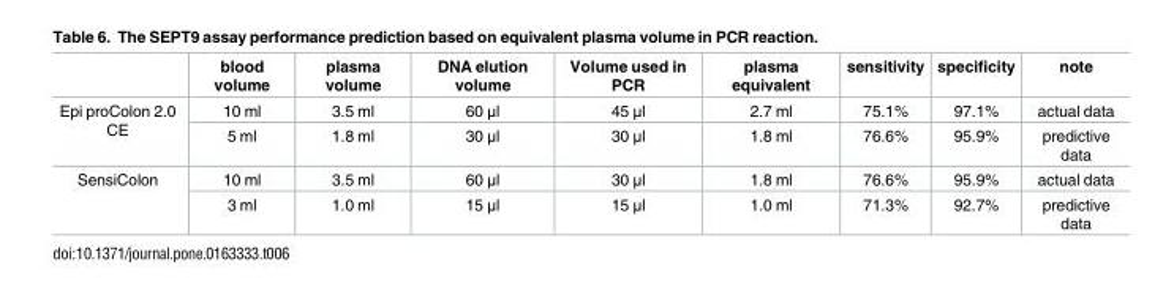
<table><thead><tr><td></td><td>blood volume</td><td>plasma volume</td><td>DNA elution volume</td><td>Volume used in PCR</td><td>plasma equivalent</td><td>sensitivity</td><td>specificity</td><td>note</td></tr></thead><tbody><tr><td rowspan="2">Epi proColon 2.0 CE</td><td>10 ml</td><td>3.5 ml</td><td>60 μl</td><td>45 μl</td><td>2.7 ml</td><td>75.1%</td><td>97.1%</td><td>actual data</td></tr><tr><td>5 ml</td><td>1.8 ml</td><td>30 μl</td><td>30 μl</td><td>1.8 ml</td><td>76.6%</td><td>95.9%</td><td>predictive data</td></tr><tr><td rowspan="2">SensiColon</td><td>10 ml</td><td>3.5 ml</td><td>60 μl</td><td>30 μl</td><td>1.8 ml</td><td>76.6%</td><td>95.9%</td><td>actual data</td></tr><tr><td>3 ml</td><td>1.0 ml</td><td>15 μl</td><td>15 μl</td><td>1.0 ml</td><td>71.3%</td><td>92.7%</td><td>predictive data</td></tr></tbody></table>